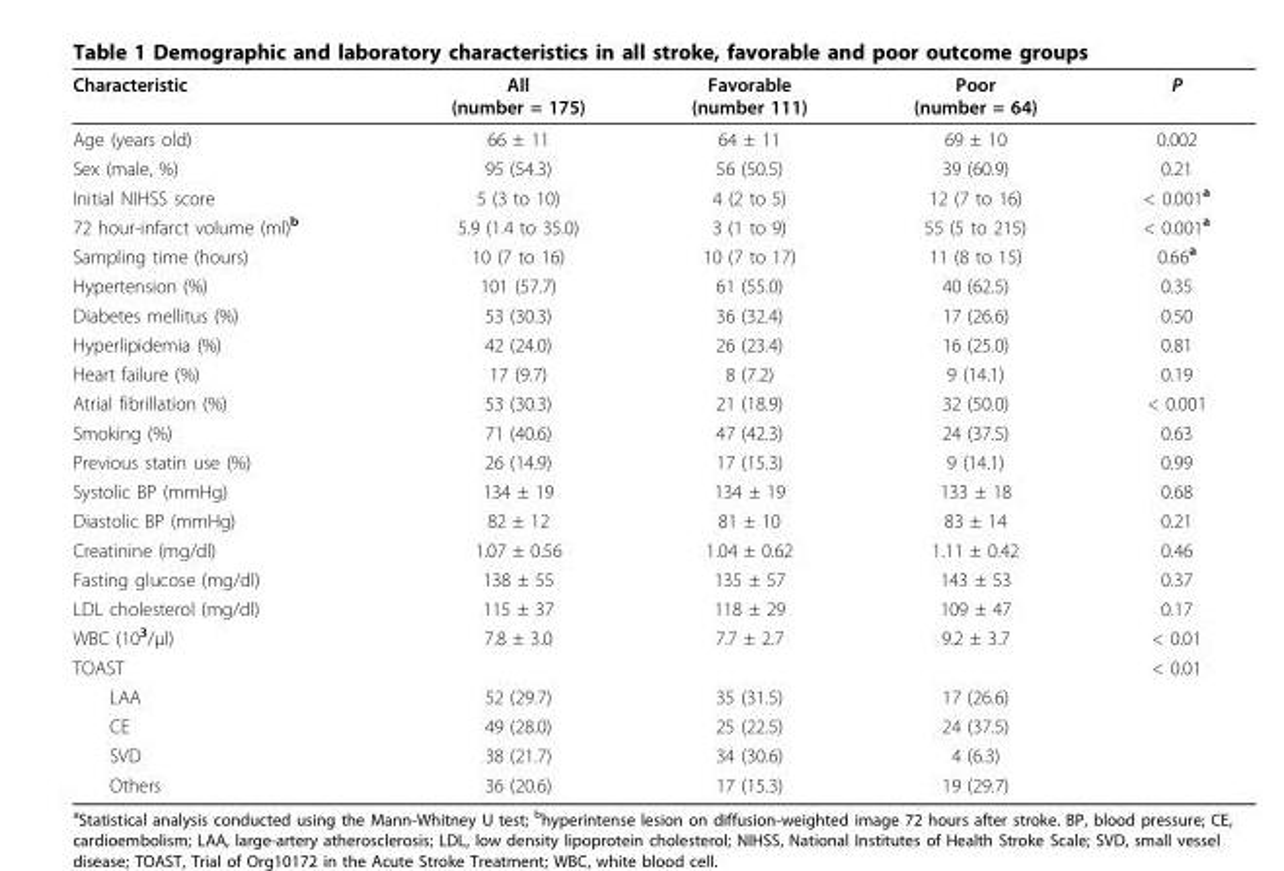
<table><thead><tr><td>Characteristic</td><td>All (number = 175)</td><td>Favorable (number 111)</td><td>Poor (number = 64)</td><td>P</td></tr></thead><tbody><tr><td>Age (years old)</td><td>66 ± 11</td><td>64 ± 11</td><td>69 ± 10</td><td>0.002</td></tr><tr><td>Sex (male, %)</td><td>95 (54.3)</td><td>56 (50.5)</td><td>39 (60.9)</td><td>0.21</td></tr><tr><td>Initial NIHSS score</td><td>5 (3 to 10)</td><td>4 (2 to 5)</td><td>12 (7 to 16)</td><td>&lt; 0.001<sup>a</sup></td></tr><tr><td>72 hour-infarct volume (ml)<sup>b</sup></td><td>5.9 (1.4 to 35.0)</td><td>3 (1 to 9)</td><td>55 (5 to 215)</td><td>&lt; 0.001<sup>a</sup></td></tr><tr><td>Sampling time (hours)</td><td>10 (7 to 16)</td><td>10 (7 to 17)</td><td>11 (8 to 15)</td><td>0.66<sup>a</sup></td></tr><tr><td>Hypertension (%)</td><td>101 (57.7)</td><td>61 (55.0)</td><td>40 (62.5)</td><td>0.35</td></tr><tr><td>Diabetes mellitus (%)</td><td>53 (30.3)</td><td>36 (32.4)</td><td>17 (26.6)</td><td>0.50</td></tr><tr><td>Hyperlipidemia (%)</td><td>42 (24.0)</td><td>26 (23.4)</td><td>16 (25.0)</td><td>0.81</td></tr><tr><td>Heart failure (%)</td><td>17 (9.7)</td><td>8 (7.2)</td><td>9 (14.1)</td><td>0.19</td></tr><tr><td>Atrial fibrillation (%)</td><td>53 (30.3)</td><td>21 (18.9)</td><td>32 (50.0)</td><td>&lt; 0.001</td></tr><tr><td>Smoking (%)</td><td>71 (40.6)</td><td>47 (42.3)</td><td>24 (37.5)</td><td>0.63</td></tr><tr><td>Previous statin use (%)</td><td>26 (14.9)</td><td>17 (15.3)</td><td>9 (14.1)</td><td>0.99</td></tr><tr><td>Systolic BP (mmHg)</td><td>134 ± 19</td><td>134 ± 19</td><td>133 ± 18</td><td>0.68</td></tr><tr><td>Diastolic BP (mmHg)</td><td>82 ± 12</td><td>81 ± 10</td><td>83 ± 14</td><td>0.21</td></tr><tr><td>Creatinine (mg/dl)</td><td>1.07 ± 0.56</td><td>1.04 ± 0.62</td><td>1.11 ± 0.42</td><td>0.46</td></tr><tr><td>Fasting glucose (mg/dl)</td><td>138 ± 55</td><td>135 ± 57</td><td>143 ± 53</td><td>0.37</td></tr><tr><td>LDL cholesterol (mg/dl)</td><td>115 ± 37</td><td>118 ± 29</td><td>109 ± 47</td><td>0.17</td></tr><tr><td>WBC (10<sup>3</sup>/μl)</td><td>7.8 ± 3.0</td><td>7.7 ± 2.7</td><td>9.2 ± 3.7</td><td>&lt; 0.01</td></tr><tr><td>TOAST</td><td></td><td></td><td></td><td>&lt; 0.01</td></tr><tr><td>LAA</td><td>52 (29.7)</td><td>35 (31.5)</td><td>17 (26.6)</td><td></td></tr><tr><td>CE</td><td>49 (28.0)</td><td>25 (22.5)</td><td>24 (37.5)</td><td></td></tr><tr><td>SVD</td><td>38 (21.7)</td><td>34 (30.6)</td><td>4 (6.3)</td><td></td></tr><tr><td>Others</td><td>36 (20.6)</td><td>17 (15.3)</td><td>19 (29.7)</td><td></td></tr></tbody></table>